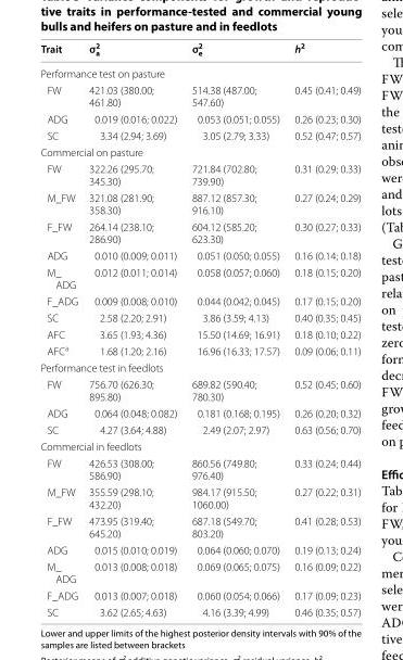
<table><thead><tr><td>Trait</td><td>σ<sub>a</sub> <sup>2</sup></td><td>σ<sub>e</sub> <sup>2</sup></td><td>h<sup>2</sup></td></tr></thead><tbody><tr><td colspan="4">Performance test on pasture</td></tr><tr><td>FW</td><td>421.03 (380.00; 461.80)</td><td>514.38 (487.00; 547.60)</td><td>0.45 (0.41; 0.49)</td></tr><tr><td>ADG</td><td>0.019 (0.016; 0.022)</td><td>0.053 (0.051; 0.055)</td><td>0.26 (0.23; 0.30)</td></tr><tr><td>SC</td><td>3.34 (2.94; 3.69)</td><td>3.05 (2.79; 3.33)</td><td>0.52 (0.47; 0.57)</td></tr><tr><td colspan="4">Commercial on pasture</td></tr><tr><td>FW</td><td>322.26 (295.70; 345.30)</td><td>721.84 (702.80; 739.90)</td><td>0.31 (0.29; 0.33)</td></tr><tr><td>M_FW</td><td>321.08 (281.90; 358.30)</td><td>887.12 (857.30; 916.10)</td><td>0.27 (0.24; 0.29)</td></tr><tr><td>F_FW</td><td>264.14 (238.10; 286.90)</td><td>604.12 (585.20; 623.30)</td><td>0.30 (0.27; 0.33)</td></tr><tr><td>ADG</td><td>0.010 (0.009; 0.011)</td><td>0.051 (0.050; 0.055)</td><td>0.16 (0.14; 0.18)</td></tr><tr><td>M_ ADG</td><td>0.012 (0.011; 0.014)</td><td>0.058 (0.057; 0.060)</td><td>0.18 (0.15; 0.20)</td></tr><tr><td>F_ADG</td><td>0.009 (0.008; 0.010)</td><td>0.044 (0.042; 0.045)</td><td>0.17 (0.15; 0.20)</td></tr><tr><td>SC</td><td>2.58 (2.20; 2.91)</td><td>3.86 (3.59; 4.13)</td><td>0.40 (0.35; 0.45)</td></tr><tr><td>AFC</td><td>3.65 (1.93; 4.36)</td><td>15.50 (14.69; 16.91)</td><td>0.18 (0.10; 0.22)</td></tr><tr><td>AFC<sup>a</sup></td><td>1.68 (1.20; 2.16)</td><td>16.96 (16.33; 17.57)</td><td>0.09 (0.06; 0.11)</td></tr><tr><td colspan="4">Performance test in feedlots</td></tr><tr><td>FW</td><td>756.70 (626.30; 895.80)</td><td>689.82 (590.40; 780.30)</td><td>0.52 (0.45; 0.60)</td></tr><tr><td>ADG</td><td>0.064 (0.048; 0.082)</td><td>0.181 (0.168; 0.195)</td><td>0.26 (0.20; 0.32)</td></tr><tr><td>SC</td><td>4.27 (3.64; 4.88)</td><td>2.49 (2.07; 2.97)</td><td>0.63 (0.56; 0.70)</td></tr><tr><td colspan="4">Commercial in feedlots</td></tr><tr><td>FW</td><td>426.53 (308.00; 586.90)</td><td>860.56 (749.80; 976.40)</td><td>0.33 (0.24; 0.44)</td></tr><tr><td>M_FW</td><td>355.59 (298.10; 432.20)</td><td>984.17 (915.50; 1060.00)</td><td>0.27 (0.22; 0.31)</td></tr><tr><td>F_FW</td><td>473.95 (319.40; 645.20)</td><td>687.18 (549.70; 803.20)</td><td>0.41 (0.28; 0.53)</td></tr><tr><td>ADG</td><td>0.015 (0.010; 0.019)</td><td>0.064 (0.060; 0.070)</td><td>0.19 (0.13; 0.24)</td></tr><tr><td>M_ ADG</td><td>0.013 (0.008; 0.018)</td><td>0.069 (0.065; 0.075)</td><td>0.16 (0.09; 0.22)</td></tr><tr><td>F_ADG</td><td>0.013 (0.007; 0.018)</td><td>0.060 (0.054; 0.066)</td><td>0.17 (0.09; 0.23)</td></tr><tr><td>SC</td><td>3.62 (2.65; 4.63)</td><td>4.16 (3.39; 4.99)</td><td>0.46 (0.35; 0.57)</td></tr></tbody></table>